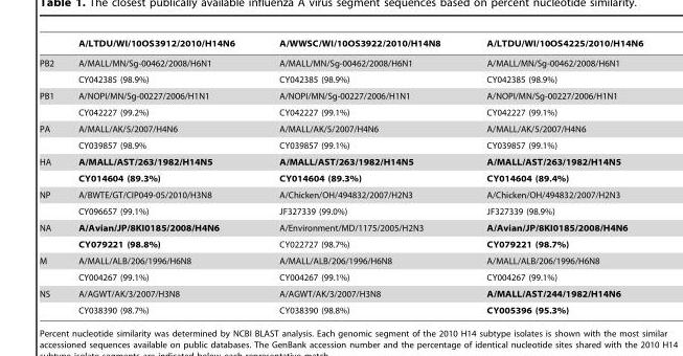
<table><thead><tr><td></td><td>A/LTDU/WI/10OS3912/2010/H14N6</td><td>A/WWSC/WI/10OS3922/2010/H14N8</td><td>A/LTDU/WI/10OS4225/2010/H14N6</td></tr></thead><tbody><tr><td rowspan="2">PB2</td><td>A/MALL/MN/Sg-00462/2008/H6N1</td><td>A/MALL/MN/Sg-00462/2008/H6N1</td><td>A/MALL/MN/Sg-00462/2008/H6N1</td></tr><tr><td>CY042385 (98.9%)</td><td>CY042385 (98.9%)</td><td>CY042385 (98.9%)</td></tr><tr><td rowspan="2">PB1</td><td>A/NOPI/MN/Sg-00227/2006/H1N1</td><td>A/NOPI/MN/Sg-00227/2006/H1N1</td><td>A/NOPI/MN/Sg-00227/2006/H1N1</td></tr><tr><td>CY042227 (99.2%)</td><td>CY042227 (99.1%)</td><td>CY042227 (99.1%)</td></tr><tr><td rowspan="2">PA</td><td>A/MALL/AK/5/2007/H4N6</td><td>A/MALL/AK/5/2007/H4N6</td><td>A/MALL/AK/5/2007/H4N6</td></tr><tr><td>CY039857 (98.9%</td><td>CY039857 (99.1%)</td><td>CY039857 (99.1%)</td></tr><tr><td rowspan="2">HA</td><td>A/MALL/AST/263/1982/H14N5</td><td>A/MALL/AST/263/1982/H14N5</td><td>A/MALL/AST/263/1982/H14N5</td></tr><tr><td>CY014604 (89.3%)</td><td>CY014604 (89.3%)</td><td>CY014604 (89.4%)</td></tr><tr><td rowspan="2">NP</td><td>A/BWTE/GT/CIP049-05/2010/H3N8</td><td>A/Chicken/OH/494832/2007/H2N3</td><td>A/Chicken/OH/494832/2007/H2N3</td></tr><tr><td>CY096657 (99.1%)</td><td>JF327339 (99.0%)</td><td>JF327339 (98.9%)</td></tr><tr><td rowspan="2">NA</td><td>A/Avian/JP/8KI0185/2008/H4N6</td><td>A/Environment/MD/1175/2005/H2N3</td><td>A/Avian/JP/8KI0185/2008/H4N6</td></tr><tr><td>CY079221 (98.8%)</td><td>CY022727 (98.7%)</td><td>CY079221 (98.7%)</td></tr><tr><td rowspan="2">M</td><td>A/MALL/ALB/206/1996/H6N8</td><td>A/MALL/ALB/206/1996/H6N8</td><td>A/MALL/ALB/206/1996/H6N8</td></tr><tr><td>CY004267 (99.1%)</td><td>CY004267 (99.1%)</td><td>CY004267 (99.1%)</td></tr><tr><td rowspan="2">NS</td><td>A/AGWT/AK/3/2007/H3N8</td><td>A/AGWT/AK/3/2007/H3N8</td><td>A/MALL/AST/244/1982/H14N6</td></tr><tr><td>CY038390 (98.7%)</td><td>CY038390 (98.8%)</td><td>CY005396 (95.3%)</td></tr></tbody></table>